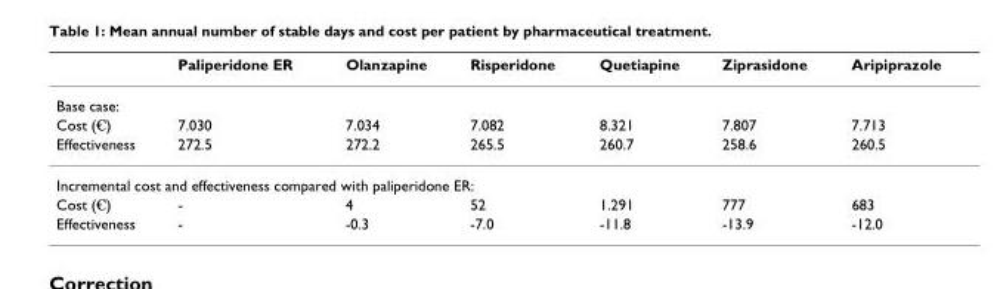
<table><thead><tr><td></td><td>Paliperidone ER</td><td>Olanzapine</td><td>Risperidone</td><td>Quetiapine</td><td>Ziprasidone</td><td>Aripiprazole</td></tr></thead><tbody><tr><td colspan="7">Base case:</td></tr><tr><td>Cost (€)</td><td>7.030</td><td>7.034</td><td>7.082</td><td>8.321</td><td>7.807</td><td>7.713</td></tr><tr><td>Effectiveness</td><td>272.5</td><td>272.2</td><td>265.5</td><td>260.7</td><td>258.6</td><td>260.5</td></tr><tr><td colspan="7">Incremental cost and effectiveness compared with paliperidone ER:</td></tr><tr><td>Cost (€)</td><td>-</td><td>4</td><td>52</td><td>1.291</td><td>777</td><td>683</td></tr><tr><td>Effectiveness</td><td>-</td><td>-0.3</td><td>-7.0</td><td>-11.8</td><td>-13.9</td><td>-12.0</td></tr></tbody></table>